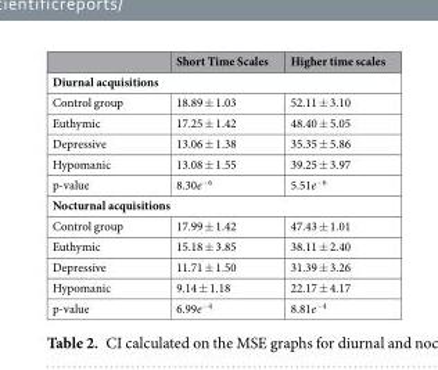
<table><thead><tr><td></td><td>Short Time Scales</td><td>Higher time scales</td></tr></thead><tbody><tr><td colspan="3">Diurnal acquisitions</td></tr><tr><td>Control group</td><td>18.89 ± 1.03</td><td>52.11 ± 3.10</td></tr><tr><td>Euthymic</td><td>17.25 ± 1.42</td><td>48.40 ± 5.05</td></tr><tr><td>Depressive</td><td>13.06 ± 1.38</td><td>35.35 ± 5.86</td></tr><tr><td>Hypomanic</td><td>13.08 ± 1.55</td><td>39.25 ± 3.97</td></tr><tr><td>p-value</td><td>8.30e<sup>−6</sup></td><td>5.51e<sup>−6</sup></td></tr><tr><td colspan="3">Nocturnal acquisitions</td></tr><tr><td>Control group</td><td>17.99 ± 1.42</td><td>47.43 ± 1.01</td></tr><tr><td>Euthymic</td><td>15.18 ± 3.85</td><td>38.11 ± 2.40</td></tr><tr><td>Depressive</td><td>11.71 ± 1.50</td><td>31.39 ± 3.26</td></tr><tr><td>Hypomanic</td><td>9.14 ± 1.18</td><td>22.17 ± 4.17</td></tr><tr><td>p-value</td><td>6.99e<sup>−4</sup></td><td>8.81e<sup>−4</sup></td></tr></tbody></table>